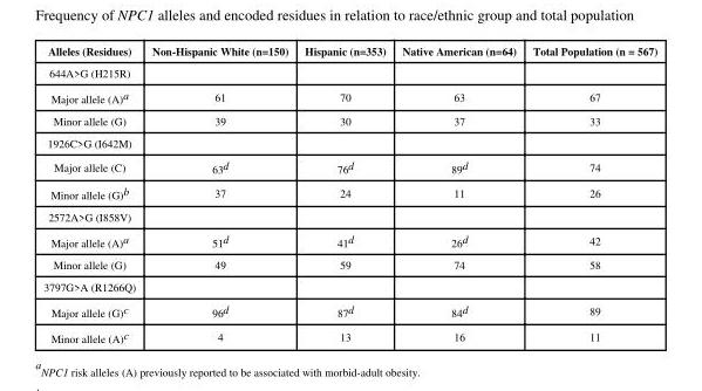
<table><thead><tr><td>Alleles (Residues)</td><td>Non-Hispanic White (n=150)</td><td>Hispanic (n=353)</td><td>Native American (n=64)</td><td>Total Population (n = 567)</td></tr></thead><tbody><tr><td colspan="5">644A&gt;G (H215R)</td></tr><tr><td>Major allele (A)<sup>a</sup></td><td>61</td><td>70</td><td>63</td><td>67</td></tr><tr><td>Minor allele (G)</td><td>39</td><td>30</td><td>37</td><td>33</td></tr><tr><td colspan="5">1926C&gt;G (I642M)</td></tr><tr><td>Major allele (C)</td><td>63<sup>d</sup></td><td>76<sup>d</sup></td><td>89<sup>d</sup></td><td>74</td></tr><tr><td>Minor allele (G)<sup>b</sup></td><td>37</td><td>24</td><td>11</td><td>26</td></tr><tr><td colspan="5">2572A&gt;G (I858V)</td></tr><tr><td>Major allele (A)<sup>a</sup></td><td>51<sup>d</sup></td><td>41<sup>d</sup></td><td>26<sup>d</sup></td><td>42</td></tr><tr><td>Minor allele (G)</td><td>49</td><td>59</td><td>74</td><td>58</td></tr><tr><td colspan="5">3797G&gt;A (R1266Q)</td></tr><tr><td>Major allele (G)<sup>c</sup></td><td>96<sup>d</sup></td><td>87<sup>d</sup></td><td>84<sup>d</sup></td><td>89</td></tr><tr><td>Minor allele (A)<sup>c</sup></td><td>4</td><td>13</td><td>16</td><td>11</td></tr></tbody></table>